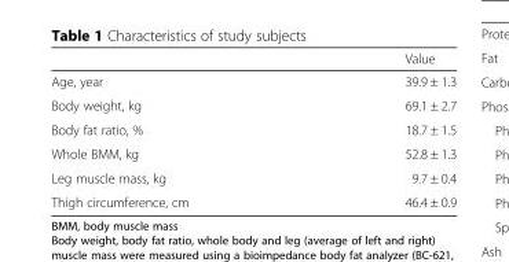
<table><thead><tr><td></td><td>Value</td></tr></thead><tbody><tr><td>Age, year</td><td>39.9 ± 1.3</td></tr><tr><td>Body weight, kg</td><td>69.1 ± 2.7</td></tr><tr><td>Body fat ratio, %</td><td>18.7 ± 1.5</td></tr><tr><td>Whole BMM, kg</td><td>52.8 ± 1.3</td></tr><tr><td>Leg muscle mass, kg</td><td>9.7 ± 0.4</td></tr><tr><td>Thigh circumference, cm</td><td>46.4 ± 0.9</td></tr></tbody></table>